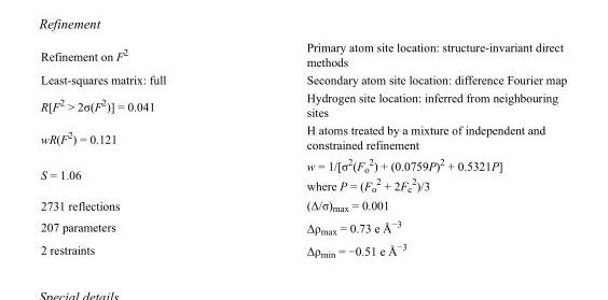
<table><tbody><tr><td>Refinement on F<sup>2</sup></td><td>Primary atom site location: structure-invariant direct methods</td></tr><tr><td>Least-squares matrix: full</td><td>Secondary atom site location: difference Fourier map</td></tr><tr><td>R[F<sup>2</sup> &gt; 2σ(F<sup>2</sup>)] = 0.041</td><td>Hydrogen site location: inferred from neighbouring sites</td></tr><tr><td>wR(F<sup>2</sup>) = 0.121</td><td>H atoms treated by a mixture of independent and constrained refinement</td></tr><tr><td>S = 1.06</td><td>w = 1/[σ<sup>2</sup>(F<sub>o</sub> <sup>2</sup>) + (0.0759P)<sup>2</sup> + 0.5321P] where P = (F<sub>o</sub> <sup>2</sup> + 2F<sub>c</sub> <sup>2</sup>)/3</td></tr><tr><td>2731 reflections</td><td>(Δ/σ)<sub>max</sub> = 0.001</td></tr><tr><td>207 parameters</td><td>Δρ<sub>max</sub> = 0.73 e Å<sup>−3</sup></td></tr><tr><td>2 restraints</td><td>Δρ<sub>min</sub> = −0.51 e Å<sup>−3</sup></td></tr></tbody></table>